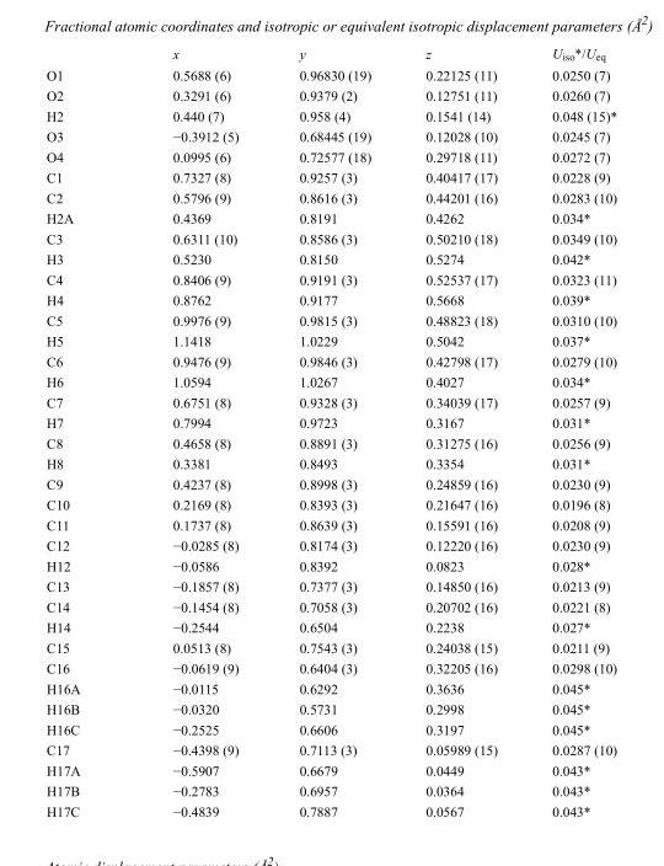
<table><thead><tr><td></td><td>x</td><td>y</td><td>z</td><td>U<sub>iso</sub>*/U<sub>eq</sub></td></tr></thead><tbody><tr><td>O1</td><td>0.5688 (6)</td><td>0.96830 (19)</td><td>0.22125 (11)</td><td>0.0250 (7)</td></tr><tr><td>O2</td><td>0.3291 (6)</td><td>0.9379 (2)</td><td>0.12751 (11)</td><td>0.0260 (7)</td></tr><tr><td>H2</td><td>0.440 (7)</td><td>0.958 (4)</td><td>0.1541 (14)</td><td>0.048 (15)*</td></tr><tr><td>O3</td><td>−0.3912 (5)</td><td>0.68445 (19)</td><td>0.12028 (10)</td><td>0.0245 (7)</td></tr><tr><td>O4</td><td>0.0995 (6)</td><td>0.72577 (18)</td><td>0.29718 (11)</td><td>0.0272 (7)</td></tr><tr><td>C1</td><td>0.7327 (8)</td><td>0.9257 (3)</td><td>0.40417 (17)</td><td>0.0228 (9)</td></tr><tr><td>C2</td><td>0.5796 (9)</td><td>0.8616 (3)</td><td>0.44201 (16)</td><td>0.0283 (10)</td></tr><tr><td>H2A</td><td>0.4369</td><td>0.8191</td><td>0.4262</td><td>0.034*</td></tr><tr><td>C3</td><td>0.6311 (10)</td><td>0.8586 (3)</td><td>0.50210 (18)</td><td>0.0349 (10)</td></tr><tr><td>H3</td><td>0.5230</td><td>0.8150</td><td>0.5274</td><td>0.042*</td></tr><tr><td>C4</td><td>0.8406 (9)</td><td>0.9191 (3)</td><td>0.52537 (17)</td><td>0.0323 (11)</td></tr><tr><td>H4</td><td>0.8762</td><td>0.9177</td><td>0.5668</td><td>0.039*</td></tr><tr><td>C5</td><td>0.9976 (9)</td><td>0.9815 (3)</td><td>0.48823 (18)</td><td>0.0310 (10)</td></tr><tr><td>H5</td><td>1.1418</td><td>1.0229</td><td>0.5042</td><td>0.037*</td></tr><tr><td>C6</td><td>0.9476 (9)</td><td>0.9846 (3)</td><td>0.42798 (17)</td><td>0.0279 (10)</td></tr><tr><td>H6</td><td>1.0594</td><td>1.0267</td><td>0.4027</td><td>0.034*</td></tr><tr><td>C7</td><td>0.6751 (8)</td><td>0.9328 (3)</td><td>0.34039 (17)</td><td>0.0257 (9)</td></tr><tr><td>H7</td><td>0.7994</td><td>0.9723</td><td>0.3167</td><td>0.031*</td></tr><tr><td>C8</td><td>0.4658 (8)</td><td>0.8891 (3)</td><td>0.31275 (16)</td><td>0.0256 (9)</td></tr><tr><td>H8</td><td>0.3381</td><td>0.8493</td><td>0.3354</td><td>0.031*</td></tr><tr><td>C9</td><td>0.4237 (8)</td><td>0.8998 (3)</td><td>0.24859 (16)</td><td>0.0230 (9)</td></tr><tr><td>C10</td><td>0.2169 (8)</td><td>0.8393 (3)</td><td>0.21647 (16)</td><td>0.0196 (8)</td></tr><tr><td>C11</td><td>0.1737 (8)</td><td>0.8639 (3)</td><td>0.15591 (16)</td><td>0.0208 (9)</td></tr><tr><td>C12</td><td>−0.0285 (8)</td><td>0.8174 (3)</td><td>0.12220 (16)</td><td>0.0230 (9)</td></tr><tr><td>H12</td><td>−0.0586</td><td>0.8392</td><td>0.0823</td><td>0.028*</td></tr><tr><td>C13</td><td>−0.1857 (8)</td><td>0.7377 (3)</td><td>0.14850 (16)</td><td>0.0213 (9)</td></tr><tr><td>C14</td><td>−0.1454 (8)</td><td>0.7058 (3)</td><td>0.20702 (16)</td><td>0.0221 (8)</td></tr><tr><td>H14</td><td>−0.2544</td><td>0.6504</td><td>0.2238</td><td>0.027*</td></tr><tr><td>C15</td><td>0.0513 (8)</td><td>0.7543 (3)</td><td>0.24038 (15)</td><td>0.0211 (9)</td></tr><tr><td>C16</td><td>−0.0619 (9)</td><td>0.6404 (3)</td><td>0.32205 (16)</td><td>0.0298 (10)</td></tr><tr><td>H16A</td><td>−0.0115</td><td>0.6292</td><td>0.3636</td><td>0.045*</td></tr><tr><td>H16B</td><td>−0.0320</td><td>0.5731</td><td>0.2998</td><td>0.045*</td></tr><tr><td>H16C</td><td>−0.2525</td><td>0.6606</td><td>0.3197</td><td>0.045*</td></tr><tr><td>C17</td><td>−0.4398 (9)</td><td>0.7113 (3)</td><td>0.05989 (15)</td><td>0.0287 (10)</td></tr><tr><td>H17A</td><td>−0.5907</td><td>0.6679</td><td>0.0449</td><td>0.043*</td></tr><tr><td>H17B</td><td>−0.2783</td><td>0.6957</td><td>0.0364</td><td>0.043*</td></tr><tr><td>H17C</td><td>−0.4839</td><td>0.7887</td><td>0.0567</td><td>0.043*</td></tr></tbody></table>